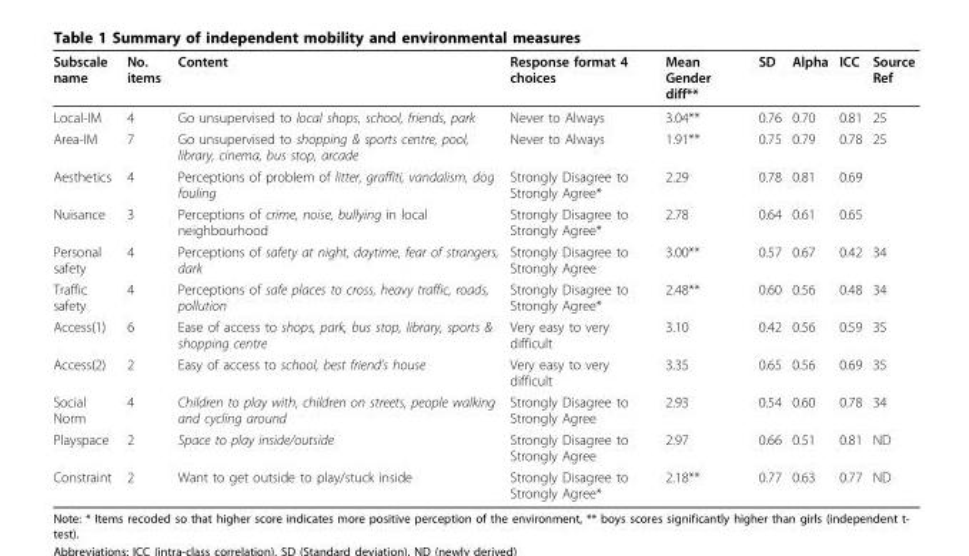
<table><thead><tr><td>Subscale name</td><td>No. items</td><td>Content</td><td>Response format 4 choices</td><td>Mean Gender diff**</td><td>SD</td><td>Alpha</td><td>ICC</td><td>Source Ref</td></tr></thead><tbody><tr><td>Local-IM</td><td>4</td><td>Go unsupervised to local shops, school, friends, park</td><td>Never to Always</td><td>3.04**</td><td>0.76</td><td>0.70</td><td>0.81</td><td>25</td></tr><tr><td>Area-IM</td><td>7</td><td>Go unsupervised to shopping &amp; sports centre, pool, library, cinema, bus stop, arcade</td><td>Never to Always</td><td>1.91**</td><td>0.75</td><td>0.79</td><td>0.78</td><td>25</td></tr><tr><td>Aesthetics</td><td>4</td><td>Perceptions of problem of litter, graffiti, vandalism, dog fouling</td><td>Strongly Disagree to Strongly Agree*</td><td>2.29</td><td>0.78</td><td>0.81</td><td>0.69</td><td></td></tr><tr><td>Nuisance</td><td>3</td><td>Perceptions of crime, noise, bullying in local neighbourhood</td><td>Strongly Disagree to Strongly Agree*</td><td>2.78</td><td>0.64</td><td>0.61</td><td>0.65</td><td></td></tr><tr><td>Personal safety</td><td>4</td><td>Perceptions of safety at night, daytime, fear of strangers, dark</td><td>Strongly Disagree to Strongly Agree</td><td>3.00**</td><td>0.57</td><td>0.67</td><td>0.42</td><td>34</td></tr><tr><td>Traffic safety</td><td>4</td><td>Perceptions of safe places to cross, heavy traffic, roads, pollution</td><td>Strongly Disagree to Strongly Agree*</td><td>2.48**</td><td>0.60</td><td>0.56</td><td>0.48</td><td>34</td></tr><tr><td>Access(1)</td><td>6</td><td>Ease of access to shops, park, bus stop, library, sports &amp; shopping centre</td><td>Very easy to very difficult</td><td>3.10</td><td>0.42</td><td>0.56</td><td>0.59</td><td>35</td></tr><tr><td>Access(2)</td><td>2</td><td>Easy of access to school, best friend’s house</td><td>Very easy to very difficult</td><td>3.35</td><td>0.65</td><td>0.56</td><td>0.69</td><td>35</td></tr><tr><td>Social Norm</td><td>4</td><td>Children to play with, children on streets, people walking and cycling around</td><td>Strongly Disagree to Strongly Agree</td><td>2.93</td><td>0.54</td><td>0.60</td><td>0.78</td><td>34</td></tr><tr><td>Playspace</td><td>2</td><td>Space to play inside/outside</td><td>Strongly Disagree to Strongly Agree</td><td>2.97</td><td>0.66</td><td>0.51</td><td>0.81</td><td>ND</td></tr><tr><td>Constraint</td><td>2</td><td>Want to get outside to play/stuck inside</td><td>Strongly Disagree to Strongly Agree*</td><td>2.18**</td><td>0.77</td><td>0.63</td><td>0.77</td><td>ND</td></tr></tbody></table>